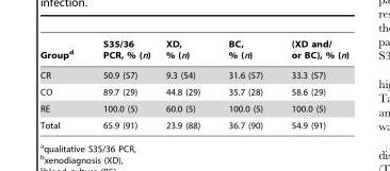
<table><thead><tr><td>Group<sup>d</sup></td><td>S35/36 PCR, % (n)</td><td>XD, % (n)</td><td>BC, % (n)</td><td>(XD and/ or BC), % (n)</td></tr></thead><tbody><tr><td>CR</td><td>50.9 (57)</td><td>9.3 (54)</td><td>31.6 (57)</td><td>33.3 (57)</td></tr><tr><td>CO</td><td>89.7 (29)</td><td>44.8 (29)</td><td>35.7 (28)</td><td>58.6 (29)</td></tr><tr><td>RE</td><td>100.0 (5)</td><td>60.0 (5)</td><td>100.0 (5)</td><td>100.0 (5)</td></tr><tr><td>Total</td><td>65.9 (91)</td><td>23.9 (88)</td><td>36.7 (90)</td><td>54.9 (91)</td></tr></tbody></table>